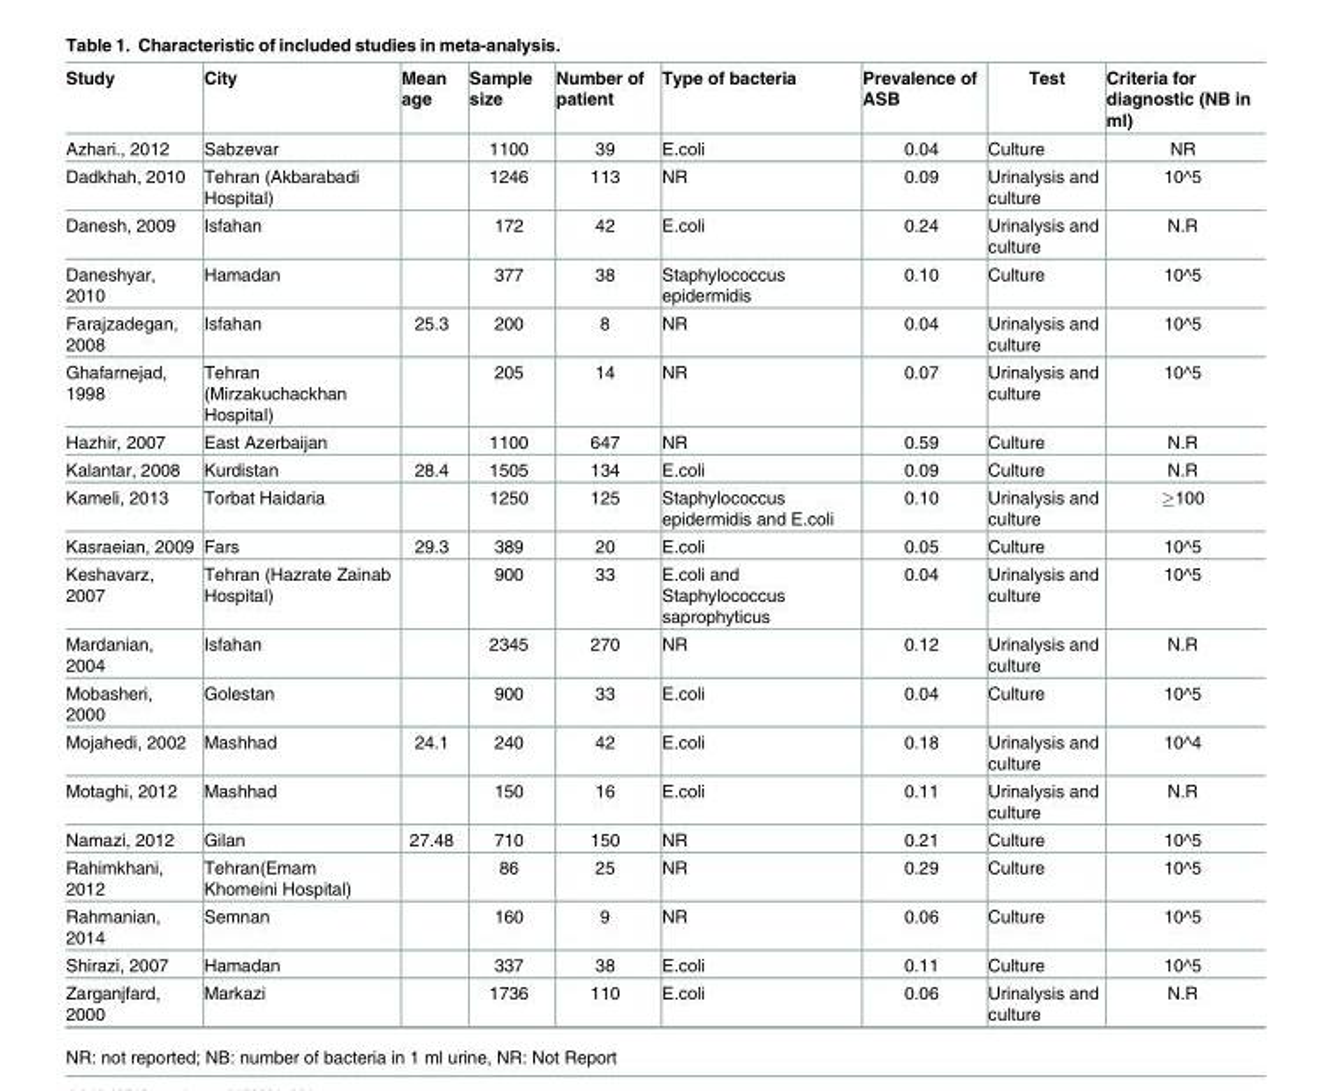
<table><thead><tr><td>Study</td><td>City</td><td>Mean age</td><td>Sample size</td><td>Number of patient</td><td>Type of bacteria</td><td>Prevalence of ASB</td><td>Test</td><td>Criteria for diagnostic (NB in ml)</td></tr></thead><tbody><tr><td>Azhari., 2012</td><td>Sabzevar</td><td></td><td>1100</td><td>39</td><td>E.coli</td><td>0.04</td><td>Culture</td><td>NR</td></tr><tr><td>Dadkhah, 2010</td><td>Tehran (Akbarabadi Hospital)</td><td></td><td>1246</td><td>113</td><td>NR</td><td>0.09</td><td>Urinalysis and culture</td><td>10^5</td></tr><tr><td>Danesh, 2009</td><td>Isfahan</td><td></td><td>172</td><td>42</td><td>E.coli</td><td>0.24</td><td>Urinalysis and culture</td><td>N.R</td></tr><tr><td>Daneshyar, 2010</td><td>Hamadan</td><td></td><td>377</td><td>38</td><td>Staphylococcus epidermidis</td><td>0.10</td><td>Culture</td><td>10^5</td></tr><tr><td>Farajzadegan, 2008</td><td>Isfahan</td><td>25.3</td><td>200</td><td>8</td><td>NR</td><td>0.04</td><td>Urinalysis and culture</td><td>10^5</td></tr><tr><td>Ghafarnejad, 1998</td><td>Tehran (Mirzakuchackhan Hospital)</td><td></td><td>205</td><td>14</td><td>NR</td><td>0.07</td><td>Urinalysis and culture</td><td>10^5</td></tr><tr><td>Hazhir, 2007</td><td>East Azerbaijan</td><td></td><td>1100</td><td>647</td><td>NR</td><td>0.59</td><td>Culture</td><td>N.R</td></tr><tr><td>Kalantar, 2008</td><td>Kurdistan</td><td>28.4</td><td>1505</td><td>134</td><td>E.coli</td><td>0.09</td><td>Culture</td><td>N.R</td></tr><tr><td>Kameli, 2013</td><td>Torbat Haidaria</td><td></td><td>1250</td><td>125</td><td>Staphylococcus epidermidis and E.coli</td><td>0.10</td><td>Urinalysis and culture</td><td>≥100</td></tr><tr><td>Kasraeian, 2009</td><td>Fars</td><td>29.3</td><td>389</td><td>20</td><td>E.coli</td><td>0.05</td><td>Culture</td><td>10^5</td></tr><tr><td>Keshavarz, 2007</td><td>Tehran (Hazrate Zainab Hospital)</td><td></td><td>900</td><td>33</td><td>E.coli and Staphylococcus saprophyticus</td><td>0.04</td><td>Urinalysis and culture</td><td>10^5</td></tr><tr><td>Mardanian, 2004</td><td>Isfahan</td><td></td><td>2345</td><td>270</td><td>NR</td><td>0.12</td><td>Urinalysis and culture</td><td>N.R</td></tr><tr><td>Mobasheri, 2000</td><td>Golestan</td><td></td><td>900</td><td>33</td><td>E.coli</td><td>0.04</td><td>Culture</td><td>10^5</td></tr><tr><td>Mojahedi, 2002</td><td>Mashhad</td><td>24.1</td><td>240</td><td>42</td><td>E.coli</td><td>0.18</td><td>Urinalysis and culture</td><td>10^4</td></tr><tr><td>Motaghi, 2012</td><td>Mashhad</td><td></td><td>150</td><td>16</td><td>E.coli</td><td>0.11</td><td>Urinalysis and culture</td><td>N.R</td></tr><tr><td>Namazi, 2012</td><td>Gilan</td><td>27.48</td><td>710</td><td>150</td><td>NR</td><td>0.21</td><td>Culture</td><td>10^5</td></tr><tr><td>Rahimkhani, 2012</td><td>Tehran(Emam Khomeini Hospital)</td><td></td><td>86</td><td>25</td><td>NR</td><td>0.29</td><td>Culture</td><td>10^5</td></tr><tr><td>Rahmanian, 2014</td><td>Semnan</td><td></td><td>160</td><td>9</td><td>NR</td><td>0.06</td><td>Culture</td><td>10^5</td></tr><tr><td>Shirazi, 2007</td><td>Hamadan</td><td></td><td>337</td><td>38</td><td>E.coli</td><td>0.11</td><td>Culture</td><td>10^5</td></tr><tr><td>Zarganjfard, 2000</td><td>Markazi</td><td></td><td>1736</td><td>110</td><td>E.coli</td><td>0.06</td><td>Urinalysis and culture</td><td>N.R</td></tr></tbody></table>